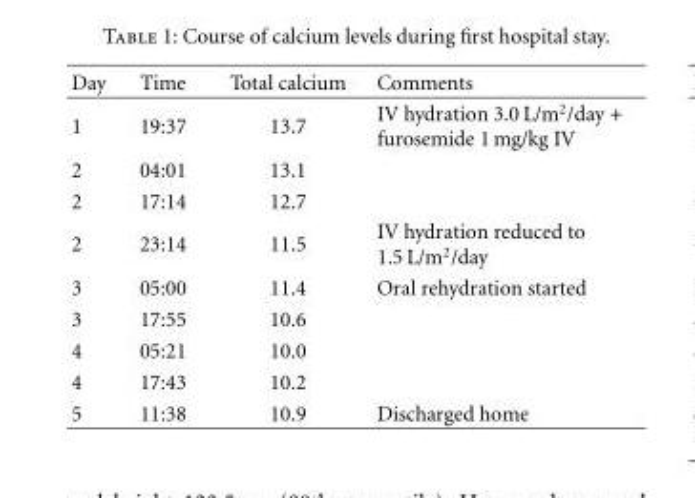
<table><thead><tr><td>Day</td><td>Time</td><td>Total calcium</td><td>Comments</td></tr></thead><tbody><tr><td>1</td><td>19:37</td><td>13.7</td><td>IV hydration 3.0 L/m<sup>2</sup>/day + furosemide 1 mg/kg IV</td></tr><tr><td>2</td><td>04:01</td><td>13.1</td><td></td></tr><tr><td>2</td><td>17:14</td><td>12.7</td><td></td></tr><tr><td>2</td><td>23:14</td><td>11.5</td><td>IV hydration reduced to 1.5 L/m<sup>2</sup>/day</td></tr><tr><td>3</td><td>05:00</td><td>11.4</td><td>Oral rehydration started</td></tr><tr><td>3</td><td>17:55</td><td>10.6</td><td></td></tr><tr><td>4</td><td>05:21</td><td>10.0</td><td></td></tr><tr><td>4</td><td>17:43</td><td>10.2</td><td></td></tr><tr><td>5</td><td>11:38</td><td>10.9</td><td>Discharged home</td></tr></tbody></table>